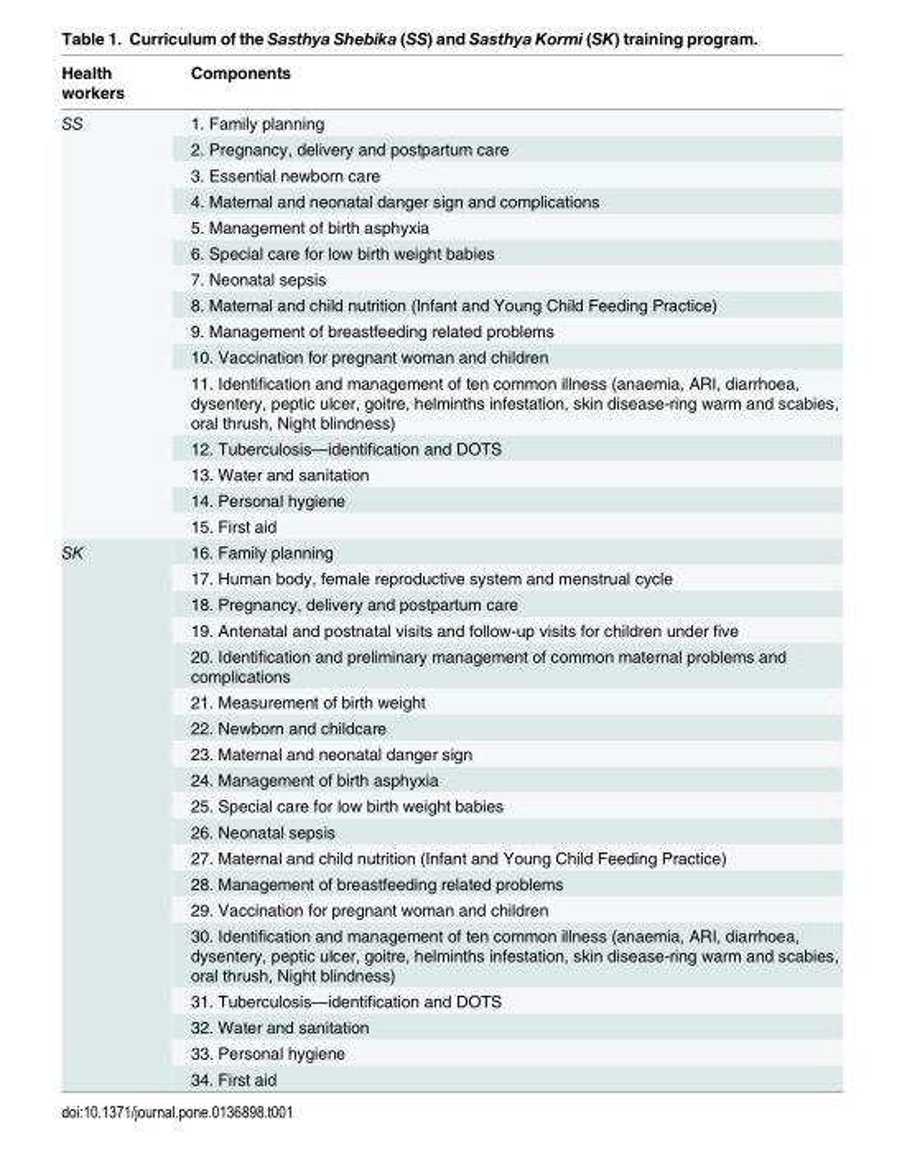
<table><thead><tr><td>Health workers</td><td>Components</td></tr></thead><tbody><tr><td rowspan="15">SS</td><td>1. Family planning</td></tr><tr><td>2. Pregnancy, delivery and postpartum care</td></tr><tr><td>3. Essential newborn care</td></tr><tr><td>4. Maternal and neonatal danger sign and complications</td></tr><tr><td>5. Management of birth asphyxia</td></tr><tr><td>6. Special care for low birth weight babies</td></tr><tr><td>7. Neonatal sepsis</td></tr><tr><td>8. Maternal and child nutrition (Infant and Young Child Feeding Practice)</td></tr><tr><td>9. Management of breastfeeding related problems</td></tr><tr><td>10. Vaccination for pregnant woman and children</td></tr><tr><td>11. Identification and management of ten common illness (anaemia, ARI, diarrhoea, dysentery, peptic ulcer, goitre, helminths infestation, skin disease-ring warm and scabies, oral thrush, Night blindness)</td></tr><tr><td>12. Tuberculosis—identification and DOTS</td></tr><tr><td>13. Water and sanitation</td></tr><tr><td>14. Personal hygiene</td></tr><tr><td>15. First aid</td></tr><tr><td rowspan="19">SK</td><td>16. Family planning</td></tr><tr><td>17. Human body, female reproductive system and menstrual cycle</td></tr><tr><td>18. Pregnancy, delivery and postpartum care</td></tr><tr><td>19. Antenatal and postnatal visits and follow-up visits for children under five</td></tr><tr><td>20. Identification and preliminary management of common maternal problems and complications</td></tr><tr><td>21. Measurement of birth weight</td></tr><tr><td>22. Newborn and childcare</td></tr><tr><td>23. Maternal and neonatal danger sign</td></tr><tr><td>24. Management of birth asphyxia</td></tr><tr><td>25. Special care for low birth weight babies</td></tr><tr><td>26. Neonatal sepsis</td></tr><tr><td>27. Maternal and child nutrition (Infant and Young Child Feeding Practice)</td></tr><tr><td>28. Management of breastfeeding related problems</td></tr><tr><td>29. Vaccination for pregnant woman and children</td></tr><tr><td>30. Identification and management of ten common illness (anaemia, ARI, diarrhoea, dysentery, peptic ulcer, goitre, helminths infestation, skin disease-ring warm and scabies, oral thrush, Night blindness)</td></tr><tr><td>31. Tuberculosis—identification and DOTS</td></tr><tr><td>32. Water and sanitation</td></tr><tr><td>33. Personal hygiene</td></tr><tr><td>34. First aid</td></tr></tbody></table>